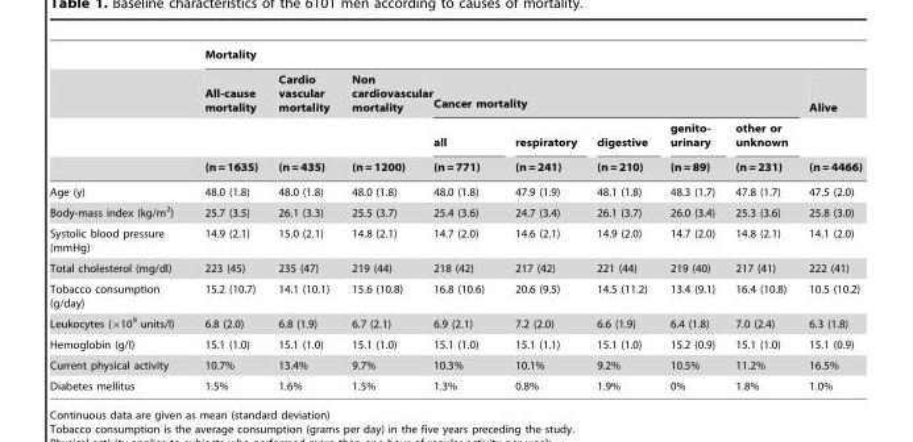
<table><thead><tr><td rowspan="4"></td><td colspan="9">Mortality</td></tr><tr><td rowspan="3">All-cause mortality (n = 1635)</td><td rowspan="3">Cardio vascular mortality (n = 435)</td><td rowspan="3">Non cardiovascular mortality (n = 1200)</td><td colspan="5">Cancer mortality</td><td rowspan="3">Alive (n = 4466)</td></tr><tr><td rowspan="2">all (n = 771)</td><td rowspan="2">respiratory (n = 241)</td><td rowspan="2">digestive (n = 210)</td><td rowspan="2">genito- urinary (n = 89)</td><td rowspan="2">other or unknown (n = 231)</td></tr><tr></tr></thead><tbody><tr><td>Age (y)</td><td>48.0 (1.8)</td><td>48.0 (1.8)</td><td>48.0 (1.8)</td><td>48.0 (1.8)</td><td>47.9 (1.9)</td><td>48.1 (1.8)</td><td>48.3 (1.7)</td><td>47.8 (1.7)</td><td>47.5 (2.0)</td></tr><tr><td>Body-mass index (kg/m<sup>2</sup>)</td><td>25.7 (3.5)</td><td>26.1 (3.3)</td><td>25.5 (3.7)</td><td>25.4 (3.6)</td><td>24.7 (3.4)</td><td>26.1 (3.7)</td><td>26.0 (3.4)</td><td>25.3 (3.6)</td><td>25.8 (3.0)</td></tr><tr><td>Systolic blood pressure (mmHg)</td><td>14.9 (2.1)</td><td>15.0 (2.1)</td><td>14.8 (2.1)</td><td>14.7 (2.0)</td><td>14.6 (2.1)</td><td>14.9 (2.0)</td><td>14.7 (2.0)</td><td>14.8 (2.1)</td><td>14.1 (2.0)</td></tr><tr><td>Total cholesterol (mg/dl)</td><td>223 (45)</td><td>235 (47)</td><td>219 (44)</td><td>218 (42)</td><td>217 (42)</td><td>221 (44)</td><td>219 (40)</td><td>217 (41)</td><td>222 (41)</td></tr><tr><td>Tobacco consumption (g/day)</td><td>15.2 (10.7)</td><td>14.1 (10.1)</td><td>15.6 (10.8)</td><td>16.8 (10.6)</td><td>20.6 (9.5)</td><td>14.5 (11.2)</td><td>13.4 (9.1)</td><td>16.4 (10.8)</td><td>10.5 (10.2)</td></tr><tr><td>Leukocytes (×10<sup>9</sup> units/l)</td><td>6.8 (2.0)</td><td>6.8 (1.9)</td><td>6.7 (2.1)</td><td>6.9 (2.1)</td><td>7.2 (2.0)</td><td>6.6 (1.9)</td><td>6.4 (1.8)</td><td>7.0 (2.4)</td><td>6.3 (1.8)</td></tr><tr><td>Hemoglobin (g/l)</td><td>15.1 (1.0)</td><td>15.1 (1.0)</td><td>15.1 (1.0)</td><td>15.1 (1.0)</td><td>15.1 (1.1)</td><td>15.1 (1.0)</td><td>15.2 (0.9)</td><td>15.1 (1.0)</td><td>15.1 (0.9)</td></tr><tr><td>Current physical activity</td><td>10.7%</td><td>13.4%</td><td>9.7%</td><td>10.3%</td><td>10.1%</td><td>9.2%</td><td>10.5%</td><td>11.2%</td><td>16.5%</td></tr><tr><td>Diabetes mellitus</td><td>1.5%</td><td>1.6%</td><td>1.5%</td><td>1.3%</td><td>0.8%</td><td>1.9%</td><td>0%</td><td>1.8%</td><td>1.0%</td></tr></tbody></table>